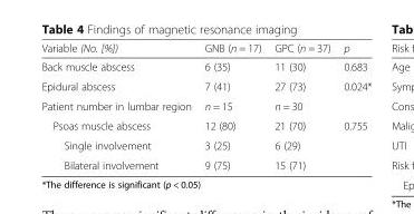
<table><thead><tr><td>Variable (No. [%])</td><td>GNB (n = 17)</td><td>GPC (n = 37)</td><td>p</td></tr></thead><tbody><tr><td>Back muscle abscess</td><td>6 (35)</td><td>11 (30)</td><td>0.683</td></tr><tr><td>Epidural abscess</td><td>7 (41)</td><td>27 (73)</td><td>0.024*</td></tr><tr><td>Patient number in lumbar region</td><td>n = 15</td><td>n = 30</td><td></td></tr><tr><td>Psoas muscle abscess</td><td>12 (80)</td><td>21 (70)</td><td>0.755</td></tr><tr><td>Single involvement</td><td>3 (25)</td><td>6 (29)</td><td></td></tr><tr><td>Bilateral involvement</td><td>9 (75)</td><td>15 (71)</td><td></td></tr></tbody></table>